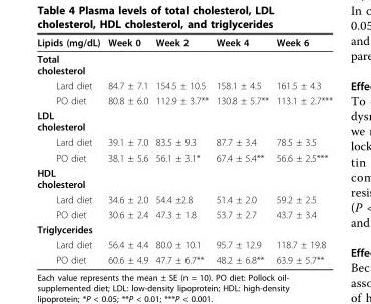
<table><tbody><tr><td>Lipids (mg/dL)</td><td>Week 0</td><td>Week 2</td><td>Week 4</td><td>Week 6</td></tr><tr><td colspan="5">Total cholesterol</td></tr><tr><td>Lard diet</td><td>84.7 ± 7.1</td><td>154.5 ± 10.5</td><td>158.1 ± 4.5</td><td>161.5 ± 4.3</td></tr><tr><td>PO diet</td><td>80.8 ± 6.0</td><td>112.9 ± 3.7**</td><td>130.8 ± 5.7**</td><td>113.1 ± 2.7***</td></tr><tr><td colspan="5">LDL cholesterol</td></tr><tr><td>Lard diet</td><td>39.1 ± 7.0</td><td>83.5 ± 9.3</td><td>87.7 ± 3.4</td><td>78.5 ± 3.5</td></tr><tr><td>PO diet</td><td>38.1 ± 5.6</td><td>56.1 ± 3.1*</td><td>67.4 ± 5.4**</td><td>56.6 ± 2.5***</td></tr><tr><td colspan="5">HDL cholesterol</td></tr><tr><td>Lard diet</td><td>34.6 ± 2.0</td><td>54.4 ±2.8</td><td>51.4 ± 2.0</td><td>59.2 ± 2.5</td></tr><tr><td>PO diet</td><td>30.6 ± 2.4</td><td>47.3 ± 1.8</td><td>53.7 ± 2.7</td><td>43.7 ± 3.4</td></tr><tr><td colspan="5">Triglycerides</td></tr><tr><td>Lard diet</td><td>56.4 ± 4.4</td><td>80.0 ± 10.1</td><td>95.7 ± 12.9</td><td>118.7 ± 19.8</td></tr><tr><td>PO diet</td><td>60.6 ± 4.9</td><td>47.7 ± 6.7**</td><td>48.2 ± 6.8**</td><td>63.9 ± 5.7**</td></tr></tbody></table>